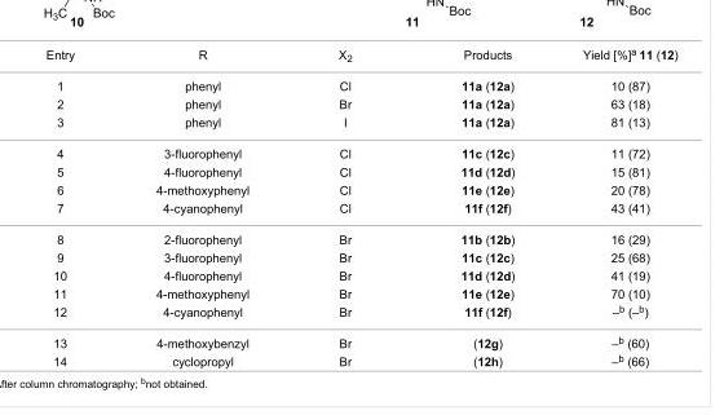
<table><tbody><tr><td>Entry</td><td>R</td><td>X<sub>2</sub></td><td>Products</td><td>Yield [%]<sup>a</sup> 11 (12)</td></tr><tr><td>1</td><td>phenyl</td><td>Cl</td><td>11a (12a)</td><td>10 (87)</td></tr><tr><td>2</td><td>phenyl</td><td>Br</td><td>11a (12a)</td><td>63 (18)</td></tr><tr><td>3</td><td>phenyl</td><td>I</td><td>11a (12a)</td><td>81 (13)</td></tr><tr><td>4</td><td>3-fluorophenyl</td><td>Cl</td><td>11c (12c)</td><td>11 (72)</td></tr><tr><td>5</td><td>4-fluorophenyl</td><td>Cl</td><td>11d (12d)</td><td>15 (81)</td></tr><tr><td>6</td><td>4-methoxyphenyl</td><td>Cl</td><td>11e (12e)</td><td>20 (78)</td></tr><tr><td>7</td><td>4-cyanophenyl</td><td>Cl</td><td>11f (12f)</td><td>43 (41)</td></tr><tr><td>8</td><td>2-fluorophenyl</td><td>Br</td><td>11b (12b)</td><td>16 (29)</td></tr><tr><td>9</td><td>3-fluorophenyl</td><td>Br</td><td>11c (12c)</td><td>25 (68)</td></tr><tr><td>10</td><td>4-fluorophenyl</td><td>Br</td><td>11d (12d)</td><td>41 (19)</td></tr><tr><td>11</td><td>4-methoxyphenyl</td><td>Br</td><td>11e (12e)</td><td>70 (10)</td></tr><tr><td>12</td><td>4-cyanophenyl</td><td>Br</td><td>11f (12f)</td><td>–<sup>b</sup> (–<sup>b</sup>)</td></tr><tr><td>13</td><td>4-methoxybenzyl</td><td>Br</td><td>(12g)</td><td>–<sup>b</sup> (60)</td></tr><tr><td>14</td><td>cyclopropyl</td><td>Br</td><td>(12h)</td><td>–<sup>b</sup> (66)</td></tr></tbody></table>